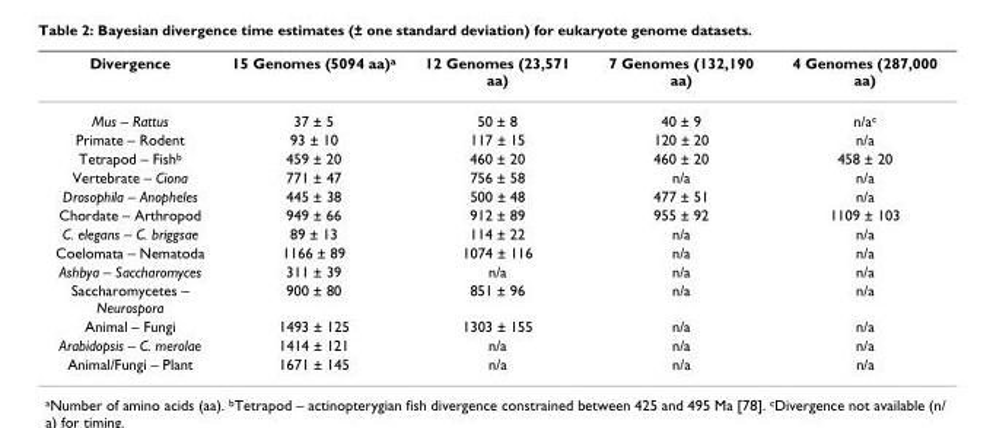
<table><thead><tr><td>Divergence</td><td>15 Genomes (5094 aa)a</td><td>12 Genomes (23,571 aa)</td><td>7 Genomes (132,190 aa)</td><td>4 Genomes (287,000 aa)</td></tr></thead><tbody><tr><td>Mus – Rattus</td><td>37 ± 5</td><td>50 ± 8</td><td>40 ± 9</td><td>n/ac</td></tr><tr><td>Primate – Rodent</td><td>93 ± 10</td><td>117 ± 15</td><td>120 ± 20</td><td>n/a</td></tr><tr><td>Tetrapod – Fishb</td><td>459 ± 20</td><td>460 ± 20</td><td>460 ± 20</td><td>458 ± 20</td></tr><tr><td>Vertebrate – Ciona</td><td>771 ± 47</td><td>756 ± 58</td><td>n/a</td><td>n/a</td></tr><tr><td>Drosophila – Anopheles</td><td>445 ± 38</td><td>500 ± 48</td><td>477 ± 51</td><td>n/a</td></tr><tr><td>Chordate – Arthropod</td><td>949 ± 66</td><td>912 ± 89</td><td>955 ± 92</td><td>1109 ± 103</td></tr><tr><td>C. elegans – C. briggsae</td><td>89 ± 13</td><td>114 ± 22</td><td>n/a</td><td>n/a</td></tr><tr><td>Coelomata – Nematoda</td><td>1166 ± 89</td><td>1074 ± 116</td><td>n/a</td><td>n/a</td></tr><tr><td>Ashbya – Saccharomyces</td><td>311 ± 39</td><td>n/a</td><td>n/a</td><td>n/a</td></tr><tr><td>Saccharomycetes – Neurospora</td><td>900 ± 80</td><td>851 ± 96</td><td>n/a</td><td>n/a</td></tr><tr><td>Animal – Fungi</td><td>1493 ± 125</td><td>1303 ± 155</td><td>n/a</td><td>n/a</td></tr><tr><td>Arabidopsis – C. merolae</td><td>1414 ± 121</td><td>n/a</td><td>n/a</td><td>n/a</td></tr><tr><td>Animal/Fungi – Plant</td><td>1671 ± 145</td><td>n/a</td><td>n/a</td><td>n/a</td></tr></tbody></table>